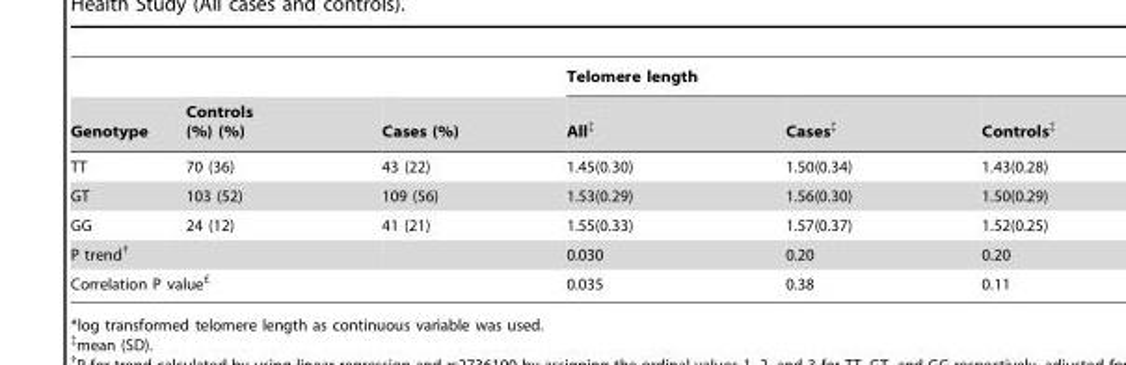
<table><thead><tr><td rowspan="2">Genotype</td><td rowspan="2">Controls (%) (%)</td><td rowspan="2">Cases (%)</td><td colspan="3">Telomere length</td></tr><tr><td>All‡</td><td>Cases‡</td><td>Controls‡</td></tr></thead><tbody><tr><td>TT</td><td>70 (36)</td><td>43 (22)</td><td>1.45(0.30)</td><td>1.50(0.34)</td><td>1.43(0.28)</td></tr><tr><td>GT</td><td>103 (52)</td><td>109 (56)</td><td>1.53(0.29)</td><td>1.56(0.30)</td><td>1.50(0.29)</td></tr><tr><td>GG</td><td>24 (12)</td><td>41 (21)</td><td>1.55(0.33)</td><td>1.57(0.37)</td><td>1.52(0.25)</td></tr><tr><td>P trend†</td><td></td><td></td><td>0.030</td><td>0.20</td><td>0.20</td></tr><tr><td colspan="3">Correlation P value£</td><td>0.035</td><td>0.38</td><td>0.11</td></tr></tbody></table>